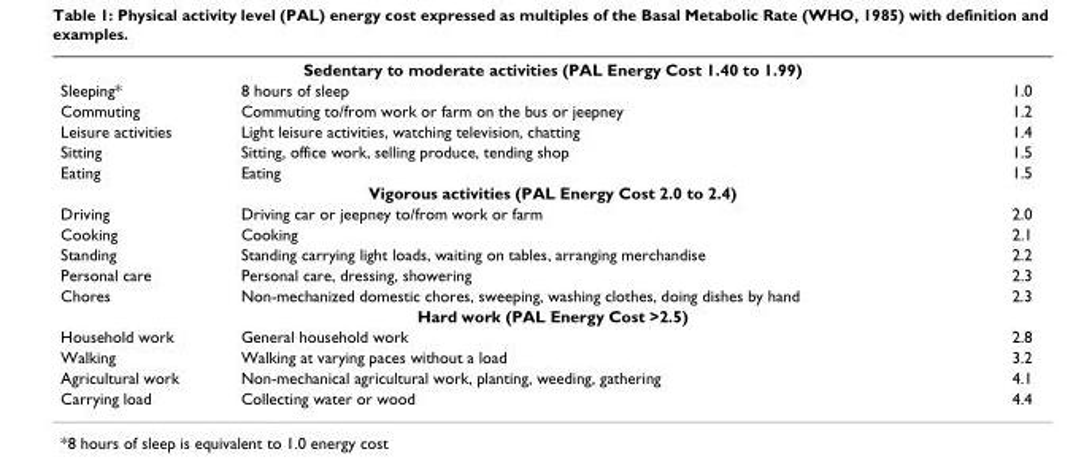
<table><tbody><tr><td colspan="3">Sedentary to moderate activities (PAL Energy Cost 1.40 to 1.99)</td></tr><tr><td>Sleeping*</td><td>8 hours of sleep</td><td>1.0</td></tr><tr><td>Commuting</td><td>Commuting to/from work or farm on the bus or jeepney</td><td>1.2</td></tr><tr><td>Leisure activities</td><td>Light leisure activities, watching television, chatting</td><td>1.4</td></tr><tr><td>Sitting</td><td>Sitting, office work, selling produce, tending shop</td><td>1.5</td></tr><tr><td>Eating</td><td>Eating</td><td>1.5</td></tr><tr><td colspan="3">Vigorous activities (PAL Energy Cost 2.0 to 2.4)</td></tr><tr><td>Driving</td><td>Driving car or jeepney to/from work or farm</td><td>2.0</td></tr><tr><td>Cooking</td><td>Cooking</td><td>2.1</td></tr><tr><td>Standing</td><td>Standing carrying light loads, waiting on tables, arranging merchandise</td><td>2.2</td></tr><tr><td>Personal care</td><td>Personal care, dressing, showering</td><td>2.3</td></tr><tr><td>Chores</td><td>Non-mechanized domestic chores, sweeping, washing clothes, doing dishes by hand</td><td>2.3</td></tr><tr><td colspan="3">Hard work (PAL Energy Cost &gt;2.5)</td></tr><tr><td>Household work</td><td>General household work</td><td>2.8</td></tr><tr><td>Walking</td><td>Walking at varying paces without a load</td><td>3.2</td></tr><tr><td>Agricultural work</td><td>Non-mechanical agricultural work, planting, weeding, gathering</td><td>4.1</td></tr><tr><td>Carrying load</td><td>Collecting water or wood</td><td>4.4</td></tr></tbody></table>